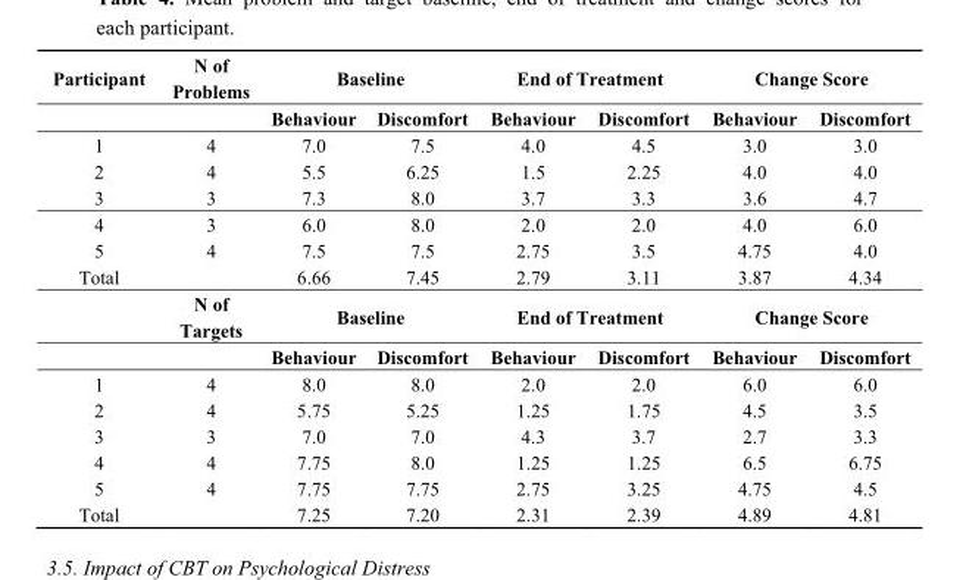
<table><thead><tr><td rowspan="2">Participant</td><td rowspan="2">N of Problems</td><td colspan="2">Baseline</td><td colspan="2">End of Treatment</td><td colspan="2">Change Score</td></tr><tr><td>Behaviour</td><td>Discomfort</td><td>Behaviour</td><td>Discomfort</td><td>Behaviour</td><td>Discomfort</td></tr></thead><tbody><tr><td>1</td><td>4</td><td>7.0</td><td>7.5</td><td>4.0</td><td>4.5</td><td>3.0</td><td>3.0</td></tr><tr><td>2</td><td>4</td><td>5.5</td><td>6.25</td><td>1.5</td><td>2.25</td><td>4.0</td><td>4.0</td></tr><tr><td>3</td><td>3</td><td>7.3</td><td>8.0</td><td>3.7</td><td>3.3</td><td>3.6</td><td>4.7</td></tr><tr><td>4</td><td>3</td><td>6.0</td><td>8.0</td><td>2.0</td><td>2.0</td><td>4.0</td><td>6.0</td></tr><tr><td>5</td><td>4</td><td>7.5</td><td>7.5</td><td>2.75</td><td>3.5</td><td>4.75</td><td>4.0</td></tr><tr><td rowspan="3">Total</td><td></td><td>6.66</td><td>7.45</td><td>2.79</td><td>3.11</td><td>3.87</td><td>4.34</td></tr><tr><td>N of Targets</td><td colspan="2">Baseline</td><td colspan="2">End of Treatment</td><td colspan="2">Change Score</td></tr><tr><td></td><td>Behaviour</td><td>Discomfort</td><td>Behaviour</td><td>Discomfort</td><td>Behaviour</td><td>Discomfort</td></tr><tr><td>1</td><td>4</td><td>8.0</td><td>8.0</td><td>2.0</td><td>2.0</td><td>6.0</td><td>6.0</td></tr><tr><td>2</td><td>4</td><td>5.75</td><td>5.25</td><td>1.25</td><td>1.75</td><td>4.5</td><td>3.5</td></tr><tr><td>3</td><td>3</td><td>7.0</td><td>7.0</td><td>4.3</td><td>3.7</td><td>2.7</td><td>3.3</td></tr><tr><td>4</td><td>4</td><td>7.75</td><td>8.0</td><td>1.25</td><td>1.25</td><td>6.5</td><td>6.75</td></tr><tr><td>5</td><td>4</td><td>7.75</td><td>7.75</td><td>2.75</td><td>3.25</td><td>4.75</td><td>4.5</td></tr><tr><td>Total</td><td></td><td>7.25</td><td>7.20</td><td>2.31</td><td>2.39</td><td>4.89</td><td>4.81</td></tr></tbody></table>